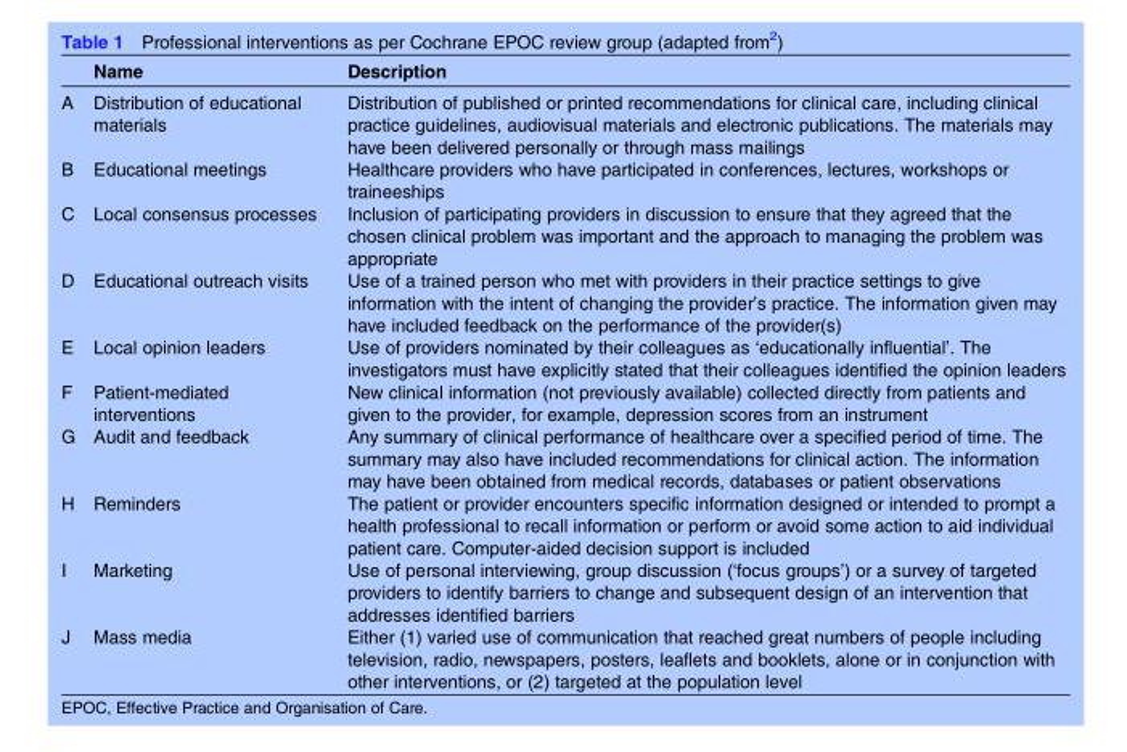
<table><thead><tr><td></td><td>Name</td><td>Description</td></tr></thead><tbody><tr><td>A</td><td>Distribution of educational materials</td><td>Distribution of published or printed recommendations for clinical care, including clinical practice guidelines, audiovisual materials and electronic publications. The materials may have been delivered personally or through mass mailings</td></tr><tr><td>B</td><td>Educational meetings</td><td>Healthcare providers who have participated in conferences, lectures, workshops or traineeships</td></tr><tr><td>C</td><td>Local consensus processes</td><td>Inclusion of participating providers in discussion to ensure that they agreed that the chosen clinical problem was important and the approach to managing the problem was appropriate</td></tr><tr><td>D</td><td>Educational outreach visits</td><td>Use of a trained person who met with providers in their practice settings to give information with the intent of changing the provider’s practice. The information given may have included feedback on the performance of the provider(s)</td></tr><tr><td>E</td><td>Local opinion leaders</td><td>Use of providers nominated by their colleagues as ‘educationally influential’. The investigators must have explicitly stated that their colleagues identified the opinion leaders</td></tr><tr><td>F</td><td>Patient-mediated interventions</td><td>New clinical information (not previously available) collected directly from patients and given to the provider, for example, depression scores from an instrument</td></tr><tr><td>G</td><td>Audit and feedback</td><td>Any summary of clinical performance of healthcare over a specified period of time. The summary may also have included recommendations for clinical action. The information may have been obtained from medical records, databases or patient observations</td></tr><tr><td>H</td><td>Reminders</td><td>The patient or provider encounters specific information designed or intended to prompt a health professional to recall information or perform or avoid some action to aid individual patient care. Computer-aided decision support is included</td></tr><tr><td>I</td><td>Marketing</td><td>Use of personal interviewing, group discussion (‘focus groups’) or a survey of targeted providers to identify barriers to change and subsequent design of an intervention that addresses identified barriers</td></tr><tr><td>J</td><td>Mass media</td><td>Either (1) varied use of communication that reached great numbers of people including television, radio, newspapers, posters, leaflets and booklets, alone or in conjunction with other interventions, or (2) targeted at the population level</td></tr></tbody></table>